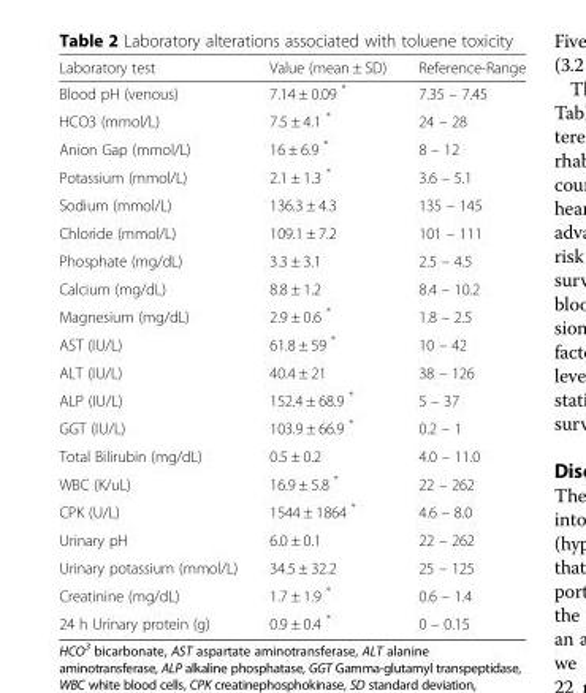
<table><thead><tr><td>Laboratory test</td><td>Value (mean ± SD)</td><td>Reference-Range</td></tr></thead><tbody><tr><td>Blood pH (venous)</td><td>7.14 ± 0.09 *</td><td>7.35 – 7.45</td></tr><tr><td>HCO3 (mmol/L)</td><td>7.5 ± 4.1 *</td><td>24 – 28</td></tr><tr><td>Anion Gap (mmol/L)</td><td>16 ± 6.9 *</td><td>8 – 12</td></tr><tr><td>Potassium (mmol/L)</td><td>2.1 ± 1.3 *</td><td>3.6 – 5.1</td></tr><tr><td>Sodium (mmol/L)</td><td>136.3 ± 4.3</td><td>135 – 145</td></tr><tr><td>Chloride (mmol/L)</td><td>109.1 ± 7.2</td><td>101 – 111</td></tr><tr><td>Phosphate (mg/dL)</td><td>3.3 ± 3.1</td><td>2.5 – 4.5</td></tr><tr><td>Calcium (mg/dL)</td><td>8.8 ± 1.2</td><td>8.4 – 10.2</td></tr><tr><td>Magnesium (mg/dL)</td><td>2.9 ± 0.6 *</td><td>1.8 – 2.5</td></tr><tr><td>AST (IU/L)</td><td>61.8 ± 59 *</td><td>10 – 42</td></tr><tr><td>ALT (IU/L)</td><td>40.4 ± 21</td><td>38 – 126</td></tr><tr><td>ALP (IU/L)</td><td>152.4 ± 68.9 *</td><td>5 – 37</td></tr><tr><td>GGT (IU/L)</td><td>103.9 ± 66.9 *</td><td>0.2 – 1</td></tr><tr><td>Total Bilirubin (mg/dL)</td><td>0.5 ± 0.2</td><td>4.0 – 11.0</td></tr><tr><td>WBC (K/uL)</td><td>16.9 ± 5.8 *</td><td>22 – 262</td></tr><tr><td>CPK (U/L)</td><td>1544 ± 1864 *</td><td>4.6 – 8.0</td></tr><tr><td>Urinary pH</td><td>6.0 ± 0.1</td><td>22 – 262</td></tr><tr><td>Urinary potassium (mmol/L)</td><td>34.5 ± 32.2</td><td>25 – 125</td></tr><tr><td>Creatinine (mg/dL)</td><td>1.7 ± 1.9 *</td><td>0.6 – 1.4</td></tr><tr><td>24 h Urinary protein (g)</td><td>0.9 ± 0.4 *</td><td>0 – 0.15</td></tr></tbody></table>